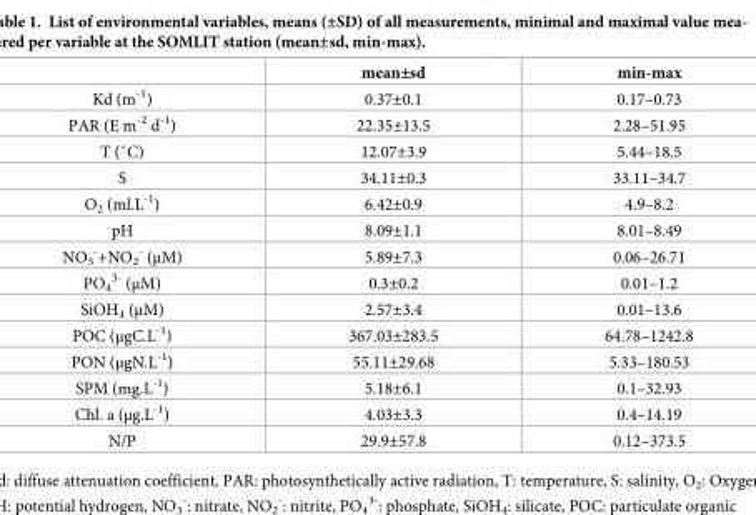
<table><thead><tr><td></td><td>mean±sd</td><td>min-max</td></tr></thead><tbody><tr><td>Kd (m<sup>-1</sup>)</td><td>0.37±0.1</td><td>0.17–0.73</td></tr><tr><td>PAR (E m<sup>-2</sup> d<sup>-1</sup>)</td><td>22.35±13.5</td><td>2.28–51.95</td></tr><tr><td>T (˚C)</td><td>12.07±3.9</td><td>5.44–18.5</td></tr><tr><td>S</td><td>34.11±0.3</td><td>33.11–34.7</td></tr><tr><td>O<sub>2</sub> (ml.L<sup>-1</sup>)</td><td>6.42±0.9</td><td>4.9–8.2</td></tr><tr><td>pH</td><td>8.09±1.1</td><td>8.01–8.49</td></tr><tr><td>NO<sub>3</sub> <sup>-</sup>+NO<sub>2</sub> <sup>-</sup> (μM)</td><td>5.89±7.3</td><td>0.06–26.71</td></tr><tr><td>PO<sub>4</sub> <sup>3-</sup> (μM)</td><td>0.3±0.2</td><td>0.01–1.2</td></tr><tr><td>SiOH<sub>4</sub> (μM)</td><td>2.57±3.4</td><td>0.01–13.6</td></tr><tr><td>POC (μgC.L<sup>-1</sup>)</td><td>367.03±283.5</td><td>64.78–1242.8</td></tr><tr><td>PON (μgN.L<sup>-1</sup>)</td><td>55.11±29.68</td><td>5.33–180.53</td></tr><tr><td>SPM (mg.L<sup>-1</sup>)</td><td>5.18±6.1</td><td>0.1–32.93</td></tr><tr><td>Chl. a (μg.L<sup>-1</sup>)</td><td>4.03±3.3</td><td>0.4–14.19</td></tr><tr><td>N/P</td><td>29.9±57.8</td><td>0.12–373.5</td></tr></tbody></table>